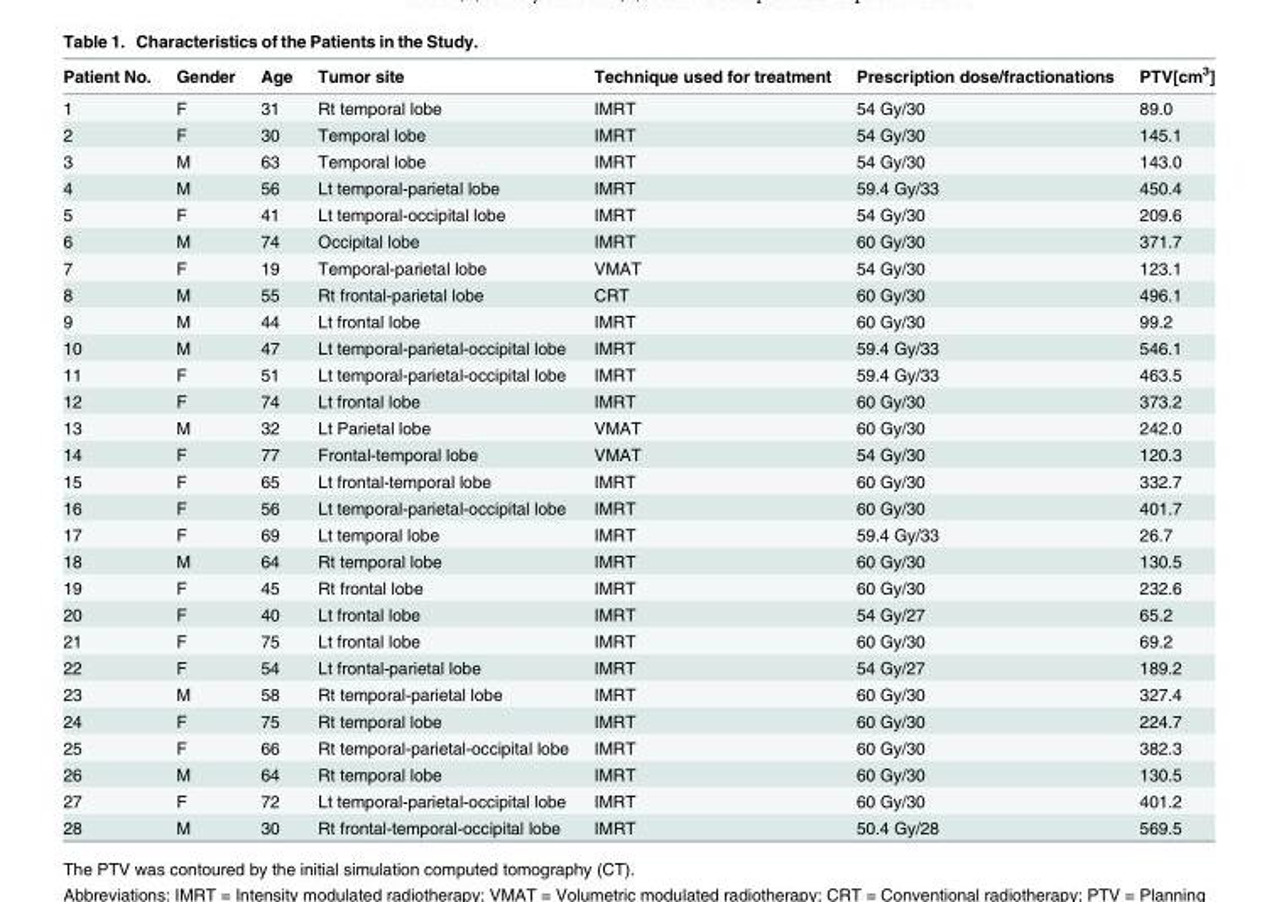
<table><thead><tr><td>Patient No.</td><td>Gender</td><td>Age</td><td>Tumor site</td><td>Technique used for treatment</td><td>Prescription dose/fractionations</td><td>PTV[cm<sup>3</sup>]</td></tr></thead><tbody><tr><td>1</td><td>F</td><td>31</td><td>Rt temporal lobe</td><td>IMRT</td><td>54 Gy/30</td><td>89.0</td></tr><tr><td>2</td><td>F</td><td>30</td><td>Temporal lobe</td><td>IMRT</td><td>54 Gy/30</td><td>145.1</td></tr><tr><td>3</td><td>M</td><td>63</td><td>Temporal lobe</td><td>IMRT</td><td>54 Gy/30</td><td>143.0</td></tr><tr><td>4</td><td>M</td><td>56</td><td>Lt temporal-parietal lobe</td><td>IMRT</td><td>59.4 Gy/33</td><td>450.4</td></tr><tr><td>5</td><td>F</td><td>41</td><td>Lt temporal-occipital lobe</td><td>IMRT</td><td>54 Gy/30</td><td>209.6</td></tr><tr><td>6</td><td>M</td><td>74</td><td>Occipital lobe</td><td>IMRT</td><td>60 Gy/30</td><td>371.7</td></tr><tr><td>7</td><td>F</td><td>19</td><td>Temporal-parietal lobe</td><td>VMAT</td><td>54 Gy/30</td><td>123.1</td></tr><tr><td>8</td><td>M</td><td>55</td><td>Rt frontal-parietal lobe</td><td>CRT</td><td>60 Gy/30</td><td>496.1</td></tr><tr><td>9</td><td>M</td><td>44</td><td>Lt frontal lobe</td><td>IMRT</td><td>60 Gy/30</td><td>99.2</td></tr><tr><td>10</td><td>M</td><td>47</td><td>Lt temporal-parietal-occipital lobe</td><td>IMRT</td><td>59.4 Gy/33</td><td>546.1</td></tr><tr><td>11</td><td>F</td><td>51</td><td>Lt temporal-parietal-occipital lobe</td><td>IMRT</td><td>59.4 Gy/33</td><td>463.5</td></tr><tr><td>12</td><td>F</td><td>74</td><td>Lt frontal lobe</td><td>IMRT</td><td>60 Gy/30</td><td>373.2</td></tr><tr><td>13</td><td>M</td><td>32</td><td>Lt Parietal lobe</td><td>VMAT</td><td>60 Gy/30</td><td>242.0</td></tr><tr><td>14</td><td>F</td><td>77</td><td>Frontal-temporal lobe</td><td>VMAT</td><td>54 Gy/30</td><td>120.3</td></tr><tr><td>15</td><td>F</td><td>65</td><td>Lt frontal-temporal lobe</td><td>IMRT</td><td>60 Gy/30</td><td>332.7</td></tr><tr><td>16</td><td>F</td><td>56</td><td>Lt temporal-parietal-occipital lobe</td><td>IMRT</td><td>60 Gy/30</td><td>401.7</td></tr><tr><td>17</td><td>F</td><td>69</td><td>Lt temporal lobe</td><td>IMRT</td><td>59.4 Gy/33</td><td>26.7</td></tr><tr><td>18</td><td>M</td><td>64</td><td>Rt temporal lobe</td><td>IMRT</td><td>60 Gy/30</td><td>130.5</td></tr><tr><td>19</td><td>F</td><td>45</td><td>Rt frontal lobe</td><td>IMRT</td><td>60 Gy/30</td><td>232.6</td></tr><tr><td>20</td><td>F</td><td>40</td><td>Lt frontal lobe</td><td>IMRT</td><td>54 Gy/27</td><td>65.2</td></tr><tr><td>21</td><td>F</td><td>75</td><td>Lt frontal lobe</td><td>IMRT</td><td>60 Gy/30</td><td>69.2</td></tr><tr><td>22</td><td>F</td><td>54</td><td>Lt frontal-parietal lobe</td><td>IMRT</td><td>54 Gy/27</td><td>189.2</td></tr><tr><td>23</td><td>M</td><td>58</td><td>Rt temporal-parietal lobe</td><td>IMRT</td><td>60 Gy/30</td><td>327.4</td></tr><tr><td>24</td><td>F</td><td>75</td><td>Rt temporal lobe</td><td>IMRT</td><td>60 Gy/30</td><td>224.7</td></tr><tr><td>25</td><td>F</td><td>66</td><td>Rt temporal-parietal-occipital lobe</td><td>IMRT</td><td>60 Gy/30</td><td>382.3</td></tr><tr><td>26</td><td>M</td><td>64</td><td>Rt temporal lobe</td><td>IMRT</td><td>60 Gy/30</td><td>130.5</td></tr><tr><td>27</td><td>F</td><td>72</td><td>Lt temporal-parietal-occipital lobe</td><td>IMRT</td><td>60 Gy/30</td><td>401.2</td></tr><tr><td>28</td><td>M</td><td>30</td><td>Rt frontal-temporal-occipital lobe</td><td>IMRT</td><td>50.4 Gy/28</td><td>569.5</td></tr></tbody></table>